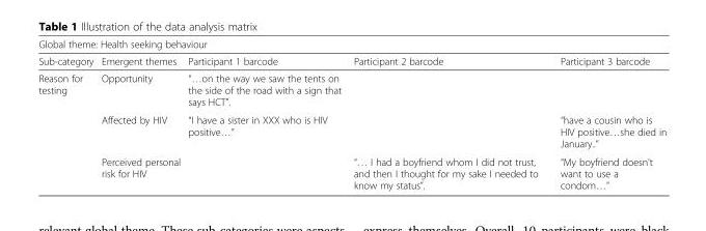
<table><thead><tr><td colspan="5">Global theme: Health seeking behaviour</td></tr><tr><td>Sub-category</td><td>Emergent themes</td><td>Participant 1 barcode</td><td>Participant 2 barcode</td><td>Participant 3 barcode</td></tr></thead><tbody><tr><td rowspan="3">Reason for testing</td><td>Opportunity</td><td>“…on the way we saw the tents on the side of the road with a sign that says HCT”.</td><td></td><td></td></tr><tr><td>Affected by HIV</td><td>“I have a sister in XXX who is HIV positive…”</td><td></td><td>“have a cousin who is HIV positive…she died in January..”</td></tr><tr><td>Perceived personal risk for HIV</td><td></td><td>“… I had a boyfriend whom I did not trust, and then I thought for my sake I needed to know my status”.</td><td>“My boyfriend doesn’t want to use a condom…”</td></tr></tbody></table>